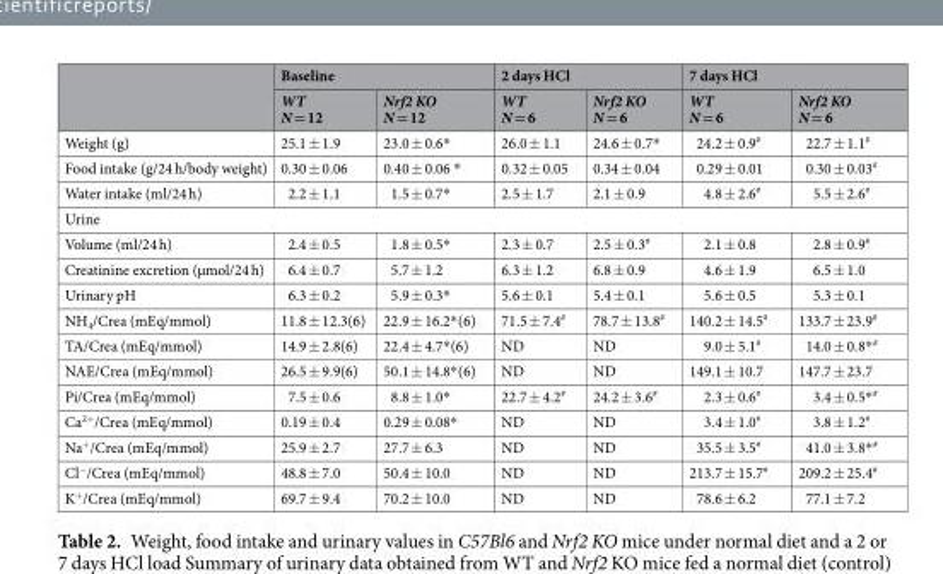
<table><thead><tr><td rowspan="2"></td><td colspan="2">Baseline</td><td colspan="2">2 days HCl</td><td colspan="2">7 days HCl</td></tr><tr><td>WT N = 12</td><td>Nrf2 KO N = 12</td><td>WT N = 6</td><td>Nrf2 KO N = 6</td><td>WT N = 6</td><td>Nrf2 KO N = 6</td></tr></thead><tbody><tr><td>Weight (g)</td><td>25.1 ± 1.9</td><td>23.0 ± 0.6*</td><td>26.0 ± 1.1</td><td>24.6 ± 0.7*</td><td>24.2 ± 0.9<sup>#</sup></td><td>22.7 ± 1.1<sup>#</sup></td></tr><tr><td>Food intake (g/24 h/body weight)</td><td>0.30 ± 0.06</td><td>0.40 ± 0.06 *</td><td>0.32 ± 0.05</td><td>0.34 ± 0.04</td><td>0.29 ± 0.01</td><td>0.30 ± 0.03<sup>#</sup></td></tr><tr><td>Water intake (ml/24 h)</td><td>2.2 ± 1.1</td><td>1.5 ± 0.7*</td><td>2.5 ± 1.7</td><td>2.1 ± 0.9</td><td>4.8 ± 2.6<sup>#</sup></td><td>5.5 ± 2.6<sup>#</sup></td></tr><tr><td colspan="7">Urine</td></tr><tr><td>Volume (ml/24 h)</td><td>2.4 ± 0.5</td><td>1.8 ± 0.5*</td><td>2.3 ± 0.7</td><td>2.5 ± 0.3<sup>#</sup></td><td>2.1 ± 0.8</td><td>2.8 ± 0.9<sup>#</sup></td></tr><tr><td>Creatinine excretion (µmol/24 h)</td><td>6.4 ± 0.7</td><td>5.7 ± 1.2</td><td>6.3 ± 1.2</td><td>6.8 ± 0.9</td><td>4.6 ± 1.9</td><td>6.5 ± 1.0</td></tr><tr><td>Urinary pH</td><td>6.3 ± 0.2</td><td>5.9 ± 0.3*</td><td>5.6 ± 0.1</td><td>5.4 ± 0.1</td><td>5.6 ± 0.5</td><td>5.3 ± 0.1</td></tr><tr><td>NH<sub>4</sub>/Crea (mEq/mmol)</td><td>11.8 ± 12.3(6)</td><td>22.9 ± 16.2*(6)</td><td>71.5 ± 7.4<sup>#</sup></td><td>78.7 ± 13.8<sup>#</sup></td><td>140.2 ± 14.5<sup>#</sup></td><td>133.7 ± 23.9<sup>#</sup></td></tr><tr><td>TA/Crea (mEq/mmol)</td><td>14.9 ± 2.8(6)</td><td>22.4 ± 4.7*(6)</td><td>ND</td><td>ND</td><td>9.0 ± 5.1<sup>#</sup></td><td>14.0 ± 0.8*<sup>#</sup></td></tr><tr><td>NAE/Crea (mEq/mmol)</td><td>26.5 ± 9.9(6)</td><td>50.1 ± 14.8*(6)</td><td>ND</td><td>ND</td><td>149.1 ± 10.7</td><td>147.7 ± 23.7</td></tr><tr><td>Pi/Crea (mEq/mmol)</td><td>7.5 ± 0.6</td><td>8.8 ± 1.0*</td><td>22.7 ± 4.2<sup>#</sup></td><td>24.2 ± 3.6<sup>#</sup></td><td>2.3 ± 0.6<sup>#</sup></td><td>3.4 ± 0.5*<sup>#</sup></td></tr><tr><td>Ca<sup>2+</sup>/Crea (mEq/mmol)</td><td>0.19 ± 0.4</td><td>0.29 ± 0.08*</td><td>ND</td><td>ND</td><td>3.4 ± 1.0<sup>#</sup></td><td>3.8 ± 1.2<sup>#</sup></td></tr><tr><td>Na<sup>+</sup>/Crea (mEq/mmol)</td><td>25.9 ± 2.7</td><td>27.7 ± 6.3</td><td>ND</td><td>ND</td><td>35.5 ± 3.5<sup>#</sup></td><td>41.0 ± 3.8*<sup>#</sup></td></tr><tr><td>Cl<sup>−</sup>/Crea (mEq/mmol)</td><td>48.8 ± 7.0</td><td>50.4 ± 10.0</td><td>ND</td><td>ND</td><td>213.7 ± 15.7<sup>#</sup></td><td>209.2 ± 25.4<sup>#</sup></td></tr><tr><td>K<sup>+</sup>/Crea (mEq/mmol)</td><td>69.7 ± 9.4</td><td>70.2 ± 10.0</td><td>ND</td><td>ND</td><td>78.6 ± 6.2</td><td>77.1 ± 7.2</td></tr></tbody></table>